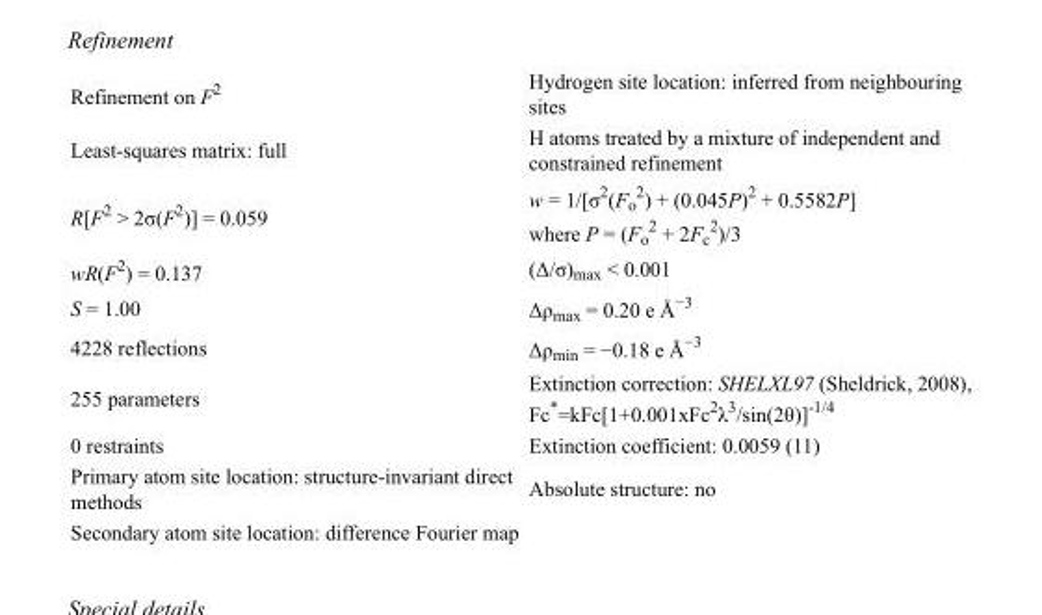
<table><tbody><tr><td>Refinement on F<sup>2</sup></td><td>Hydrogen site location: inferred from neighbouring sites</td></tr><tr><td>Least-squares matrix: full</td><td>H atoms treated by a mixture of independent and constrained refinement</td></tr><tr><td>R[F<sup>2</sup> &gt; 2σ(F<sup>2</sup>)] = 0.059</td><td>w = 1/[σ<sup>2</sup>(F<sub>o</sub> <sup>2</sup>) + (0.045P)<sup>2</sup> + 0.5582P] where P = (F<sub>o</sub> <sup>2</sup> + 2F<sub>c</sub> <sup>2</sup>)/3</td></tr><tr><td>wR(F<sup>2</sup>) = 0.137</td><td>(Δ/σ)<sub>max</sub> &lt; 0.001</td></tr><tr><td>S = 1.00</td><td>Δρ<sub>max</sub> = 0.20 e Å<sup>−3</sup></td></tr><tr><td>4228 reflections</td><td>Δρ<sub>min</sub> = −0.18 e Å<sup>−3</sup></td></tr><tr><td>255 parameters</td><td>Extinction correction: SHELXL97 (Sheldrick, 2008), Fc*=kFc[1+0.001xFc<sup>2</sup>λ<sup>3</sup>/sin(2θ)]<sup>-1/4</sup></td></tr><tr><td>0 restraints</td><td>Extinction coefficient: 0.0059 (11)</td></tr><tr><td>Primary atom site location: structure-invariant direct methods</td><td>Absolute structure: no</td></tr><tr><td>Secondary atom site location: difference Fourier map</td><td></td></tr></tbody></table>